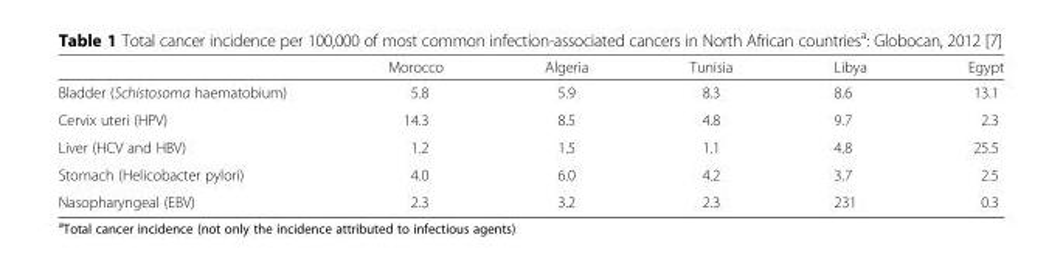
<table><thead><tr><td></td><td>Morocco</td><td>Algeria</td><td>Tunisia</td><td>Libya</td><td>Egypt</td></tr></thead><tbody><tr><td>Bladder (Schistosoma haematobium)</td><td>5.8</td><td>5.9</td><td>8.3</td><td>8.6</td><td>13.1</td></tr><tr><td>Cervix uteri (HPV)</td><td>14.3</td><td>8.5</td><td>4.8</td><td>9.7</td><td>2.3</td></tr><tr><td>Liver (HCV and HBV)</td><td>1.2</td><td>1.5</td><td>1.1</td><td>4.8</td><td>25.5</td></tr><tr><td>Stomach (Helicobacter pylori)</td><td>4.0</td><td>6.0</td><td>4.2</td><td>3.7</td><td>2.5</td></tr><tr><td>Nasopharyngeal (EBV)</td><td>2.3</td><td>3.2</td><td>2.3</td><td>231</td><td>0.3</td></tr></tbody></table>